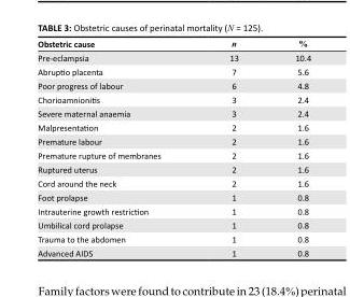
<table><thead><tr><td>Obstetric cause</td><td>n</td><td>%</td></tr></thead><tbody><tr><td>Pre-eclampsia</td><td>13</td><td>10.4</td></tr><tr><td>Abruptio placenta</td><td>7</td><td>5.6</td></tr><tr><td>Poor progress of labour</td><td>6</td><td>4.8</td></tr><tr><td>Chorioamnionitis</td><td>3</td><td>2.4</td></tr><tr><td>Severe maternal anaemia</td><td>3</td><td>2.4</td></tr><tr><td>Malpresentation</td><td>2</td><td>1.6</td></tr><tr><td>Premature labour</td><td>2</td><td>1.6</td></tr><tr><td>Premature rupture of membranes</td><td>2</td><td>1.6</td></tr><tr><td>Ruptured uterus</td><td>2</td><td>1.6</td></tr><tr><td>Cord around the neck</td><td>2</td><td>1.6</td></tr><tr><td>Foot prolapse</td><td>1</td><td>0.8</td></tr><tr><td>Intrauterine growth restriction</td><td>1</td><td>0.8</td></tr><tr><td>Umbilical cord prolapse</td><td>1</td><td>0.8</td></tr><tr><td>Trauma to the abdomen</td><td>1</td><td>0.8</td></tr><tr><td>Advanced AIDS</td><td>1</td><td>0.8</td></tr></tbody></table>